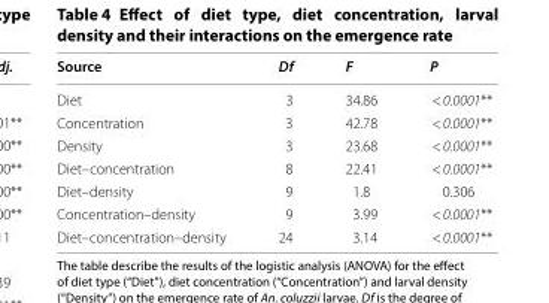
<table><thead><tr><td>Source</td><td>Df</td><td>F</td><td>P</td></tr></thead><tbody><tr><td>Diet</td><td>3</td><td>34.86</td><td>&lt; 0.0001**</td></tr><tr><td>Concentration</td><td>3</td><td>42.78</td><td>&lt; 0.0001**</td></tr><tr><td>Density</td><td>3</td><td>23.68</td><td>&lt; 0.0001**</td></tr><tr><td>Diet–concentration</td><td>8</td><td>22.41</td><td>&lt; 0.0001**</td></tr><tr><td>Diet–density</td><td>9</td><td>1.8</td><td>0.306</td></tr><tr><td>Concentration–density</td><td>9</td><td>3.99</td><td>&lt; 0.0001**</td></tr><tr><td>Diet–concentration–density</td><td>24</td><td>3.14</td><td>&lt; 0.0001**</td></tr></tbody></table>